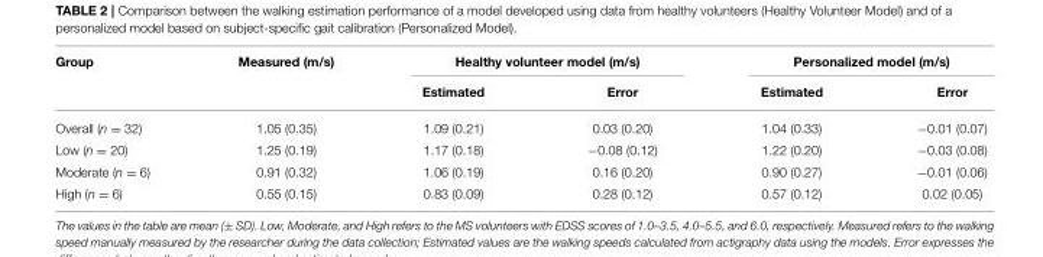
<table><thead><tr><td rowspan="2">Group</td><td rowspan="2">Measured (m/s)</td><td colspan="2">Healthy volunteer model (m/s)</td><td colspan="2">Personalized model (m/s)</td></tr><tr><td>Estimated</td><td>Error</td><td>Estimated</td><td>Error</td></tr></thead><tbody><tr><td>Overall (n = 32)</td><td>1.05 (0.35)</td><td>1.09 (0.21)</td><td>0.03 (0.20)</td><td>1.04 (0.33)</td><td>−0.01 (0.07)</td></tr><tr><td>Low (n = 20)</td><td>1.25 (0.19)</td><td>1.17 (0.18)</td><td>−0.08 (0.12)</td><td>1.22 (0.20)</td><td>−0.03 (0.08)</td></tr><tr><td>Moderate (n = 6)</td><td>0.91 (0.32)</td><td>1.06 (0.19)</td><td>0.16 (0.20)</td><td>0.90 (0.27)</td><td>−0.01 (0.06)</td></tr><tr><td>High (n = 6)</td><td>0.55 (0.15)</td><td>0.83 (0.09)</td><td>0.28 (0.12)</td><td>0.57 (0.12)</td><td>0.02 (0.05)</td></tr></tbody></table>